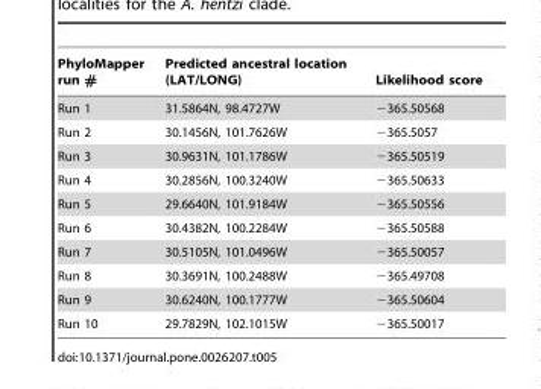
<table><thead><tr><td>PhyloMapper run #</td><td>Predicted ancestral location (LAT/LONG)</td><td>Likelihood score</td></tr></thead><tbody><tr><td>Run 1</td><td>31.5864N, 98.4727W</td><td>−365.50568</td></tr><tr><td>Run 2</td><td>30.1456N, 101.7626W</td><td>−365.5057</td></tr><tr><td>Run 3</td><td>30.9631N, 101.1786W</td><td>−365.50519</td></tr><tr><td>Run 4</td><td>30.2856N, 100.3240W</td><td>−365.50633</td></tr><tr><td>Run 5</td><td>29.6640N, 101.9184W</td><td>−365.50556</td></tr><tr><td>Run 6</td><td>30.4382N, 100.2284W</td><td>−365.50588</td></tr><tr><td>Run 7</td><td>30.5105N, 101.0496W</td><td>−365.50057</td></tr><tr><td>Run 8</td><td>30.3691N, 100.2488W</td><td>−365.49708</td></tr><tr><td>Run 9</td><td>30.6240N, 100.1777W</td><td>−365.50604</td></tr><tr><td>Run 10</td><td>29.7829N, 102.1015W</td><td>−365.50017</td></tr></tbody></table>